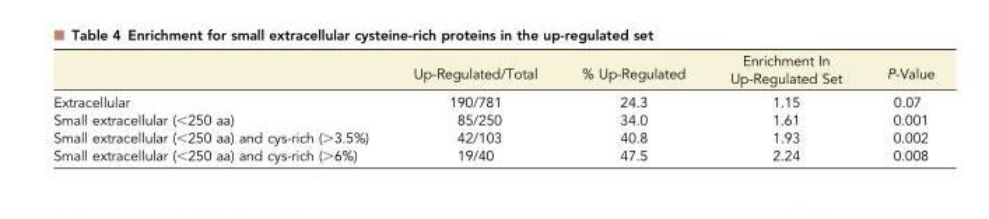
<table><thead><tr><td></td><td>Up-Regulated/Total</td><td>% Up-Regulated</td><td>Enrichment In Up-Regulated Set</td><td>P-Value</td></tr></thead><tbody><tr><td>Extracellular</td><td>190/781</td><td>24.3</td><td>1.15</td><td>0.07</td></tr><tr><td>Small extracellular (&lt;250 aa)</td><td>85/250</td><td>34.0</td><td>1.61</td><td>0.001</td></tr><tr><td>Small extracellular (&lt;250 aa) and cys-rich (&gt;3.5%)</td><td>42/103</td><td>40.8</td><td>1.93</td><td>0.002</td></tr><tr><td>Small extracellular (&lt;250 aa) and cys-rich (&gt;6%)</td><td>19/40</td><td>47.5</td><td>2.24</td><td>0.008</td></tr></tbody></table>